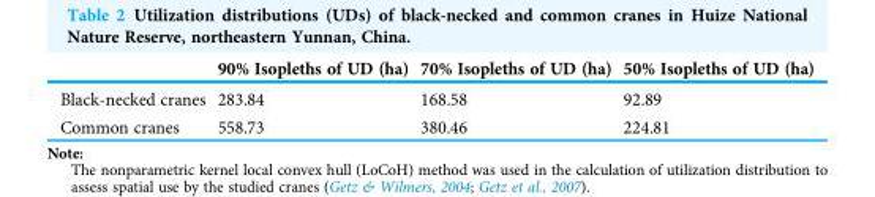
<table><thead><tr><td></td><td>90% Isopleths of UD (ha)</td><td>70% Isopleths of UD (ha)</td><td>50% Isopleths of UD (ha)</td></tr></thead><tbody><tr><td>Black-necked cranes</td><td>283.84</td><td>168.58</td><td>92.89</td></tr><tr><td>Common cranes</td><td>558.73</td><td>380.46</td><td>224.81</td></tr></tbody></table>